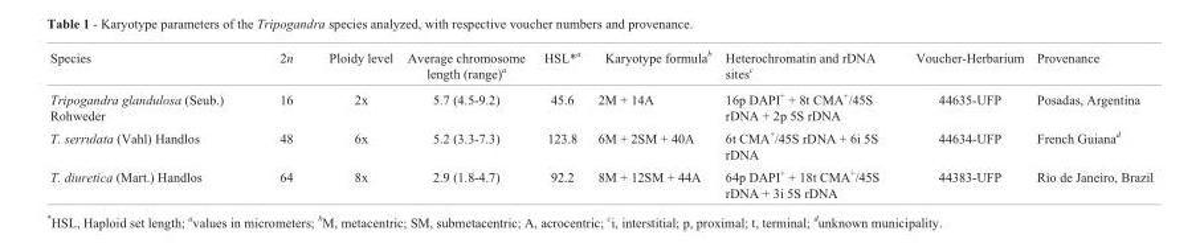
<table><thead><tr><td>Species</td><td>2n</td><td>Ploidy level</td><td>Average chromosome length (range)<sup>a</sup></td><td>HSL*<sup>a</sup></td><td>Karyotype formula<sup>b</sup></td><td>Heterochromatin and rDNA sites<sup>c</sup></td><td>Voucher-Herbarium</td><td>Provenance</td></tr></thead><tbody><tr><td>Tripogandra glandulosa (Seub.) Rohweder</td><td>16</td><td>2x</td><td>5.7 (4.5-9.2)</td><td>45.6</td><td>2M + 14A</td><td>16p DAPI<sup>+</sup> + 8t CMA<sup>+</sup>/45S rDNA + 2p 5S rDNA</td><td>44635-UFP</td><td>Posadas, Argentina</td></tr><tr><td>T. serrulata (Vahl) Handlos</td><td>48</td><td>6x</td><td>5.2 (3.3-7.3)</td><td>123.8</td><td>6M + 2SM + 40A</td><td>6t CMA<sup>+</sup>/45S rDNA + 6i 5S rDNA</td><td>44634-UFP</td><td>French Guiana<sup>d</sup></td></tr><tr><td>T. diuretica (Mart.) Handlos</td><td>64</td><td>8x</td><td>2.9 (1.8-4.7)</td><td>92.2</td><td>8M + 12SM + 44A</td><td>64p DAPI<sup>+</sup> + 18t CMA<sup>+</sup>/45S rDNA + 3i 5S rDNA</td><td>44383-UFP</td><td>Rio de Janeiro, Brazil</td></tr></tbody></table>